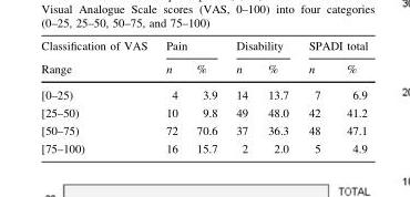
<table><thead><tr><td rowspan="2">Classification of VAS Range</td><td colspan="2">Pain</td><td colspan="2">Disability</td><td colspan="2">SPADI total</td></tr><tr><td>n</td><td>%</td><td>n</td><td>%</td><td>n</td><td>%</td></tr></thead><tbody><tr><td>[0–25)</td><td>4</td><td>3.9</td><td>14</td><td>13.7</td><td>7</td><td>6.9</td></tr><tr><td>[25–50)</td><td>10</td><td>9.8</td><td>49</td><td>48.0</td><td>42</td><td>41.2</td></tr><tr><td>[50–75)</td><td>72</td><td>70.6</td><td>37</td><td>36.3</td><td>48</td><td>47.1</td></tr><tr><td>[75–100)</td><td>16</td><td>15.7</td><td>2</td><td>2.0</td><td>5</td><td>4.9</td></tr></tbody></table>